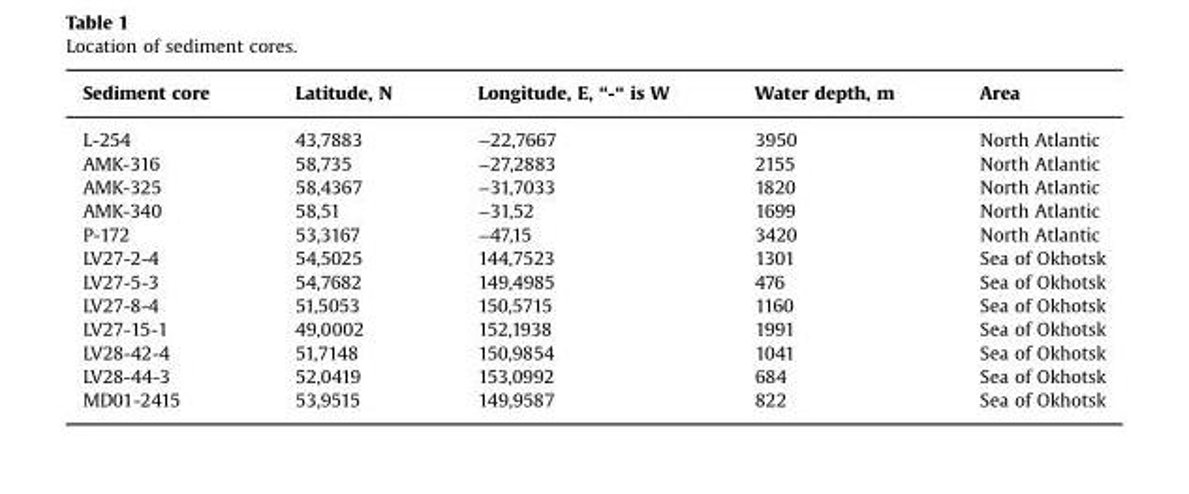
<table><thead><tr><td>Sediment core</td><td>Latitude, N</td><td>Longitude, E, “-“ is W</td><td>Water depth, m</td><td>Area</td></tr></thead><tbody><tr><td>L-254</td><td>43,7883</td><td>−22,7667</td><td>3950</td><td>North Atlantic</td></tr><tr><td>AMK-316</td><td>58,735</td><td>−27,2883</td><td>2155</td><td>North Atlantic</td></tr><tr><td>AMK-325</td><td>58,4367</td><td>−31,7033</td><td>1820</td><td>North Atlantic</td></tr><tr><td>AMK-340</td><td>58,51</td><td>−31,52</td><td>1699</td><td>North Atlantic</td></tr><tr><td>P-172</td><td>53,3167</td><td>−47,15</td><td>3420</td><td>North Atlantic</td></tr><tr><td>LV27-2-4</td><td>54,5025</td><td>144,7523</td><td>1301</td><td>Sea of Okhotsk</td></tr><tr><td>LV27-5-3</td><td>54,7682</td><td>149,4985</td><td>476</td><td>Sea of Okhotsk</td></tr><tr><td>LV27-8-4</td><td>51,5053</td><td>150,5715</td><td>1160</td><td>Sea of Okhotsk</td></tr><tr><td>LV27-15-1</td><td>49,0002</td><td>152,1938</td><td>1991</td><td>Sea of Okhotsk</td></tr><tr><td>LV28-42-4</td><td>51,7148</td><td>150,9854</td><td>1041</td><td>Sea of Okhotsk</td></tr><tr><td>LV28-44-3</td><td>52,0419</td><td>153,0992</td><td>684</td><td>Sea of Okhotsk</td></tr><tr><td>MD01-2415</td><td>53,9515</td><td>149,9587</td><td>822</td><td>Sea of Okhotsk</td></tr></tbody></table>